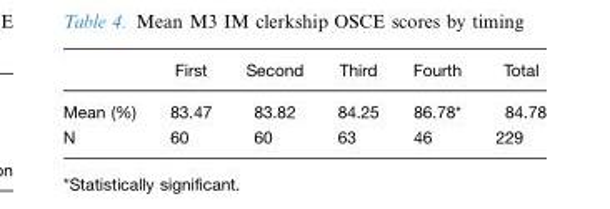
<table><thead><tr><td></td><td>First</td><td>Second</td><td>Third</td><td>Fourth</td><td>Total</td></tr></thead><tbody><tr><td>Mean (%)</td><td>83.47</td><td>83.82</td><td>84.25</td><td>86.78*</td><td>84.78</td></tr><tr><td>N</td><td>60</td><td>60</td><td>63</td><td>46</td><td>229</td></tr></tbody></table>